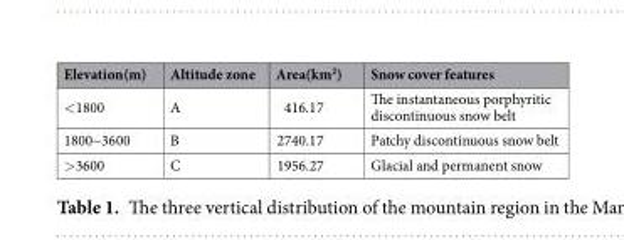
<table><thead><tr><td>Elevation(m)</td><td>Altitude zone</td><td>Area(km<sup>2</sup>)</td><td>Snow cover features</td></tr></thead><tbody><tr><td>&lt;1800</td><td>A</td><td>416.17</td><td>The instantaneous porphyritic discontinuous snow belt</td></tr><tr><td>1800~3600</td><td>B</td><td>2740.17</td><td>Patchy discontinuous snow belt</td></tr><tr><td>&gt;3600</td><td>C</td><td>1956.27</td><td>Glacial and permanent snow</td></tr></tbody></table>